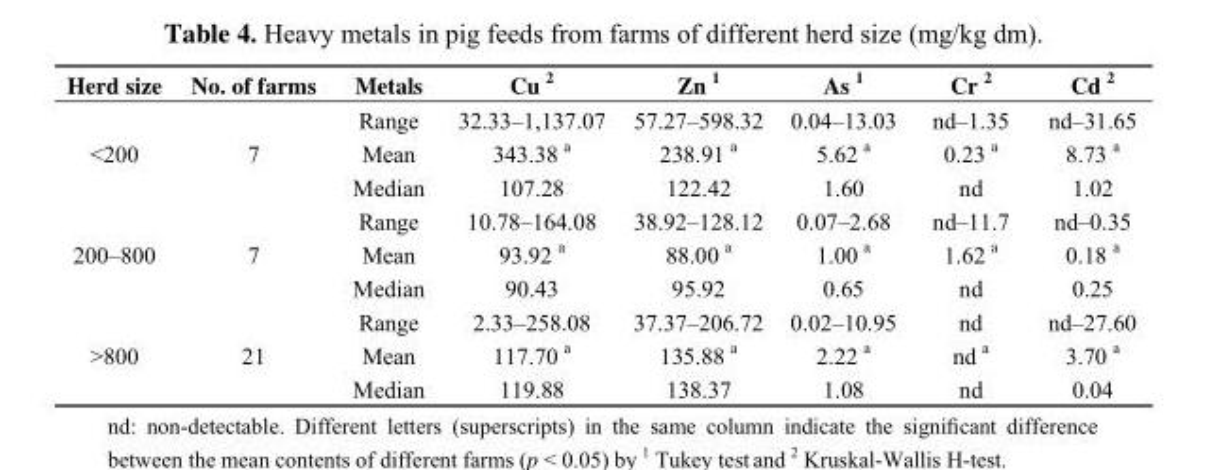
<table><thead><tr><td>Herd size</td><td>No. of farms</td><td>Metals</td><td>Cu <sup>2</sup></td><td>Zn <sup>1</sup></td><td>As <sup>1</sup></td><td>Cr <sup>2</sup></td><td>Cd <sup>2</sup></td></tr></thead><tbody><tr><td rowspan="3">&lt;200</td><td rowspan="3">7</td><td>Range</td><td>32.33–1,137.07</td><td>57.27–598.32</td><td>0.04–13.03</td><td>nd–1.35</td><td>nd–31.65</td></tr><tr><td>Mean</td><td>343.38 <sup>a</sup></td><td>238.91 <sup>a</sup></td><td>5.62 <sup>a</sup></td><td>0.23 <sup>a</sup></td><td>8.73 <sup>a</sup></td></tr><tr><td>Median</td><td>107.28</td><td>122.42</td><td>1.60</td><td>nd</td><td>1.02</td></tr><tr><td rowspan="3">200–800</td><td rowspan="3">7</td><td>Range</td><td>10.78–164.08</td><td>38.92–128.12</td><td>0.07–2.68</td><td>nd–11.7</td><td>nd–0.35</td></tr><tr><td>Mean</td><td>93.92 <sup>a</sup></td><td>88.00 <sup>a</sup></td><td>1.00 <sup>a</sup></td><td>1.62 <sup>a</sup></td><td>0.18 <sup>a</sup></td></tr><tr><td>Median</td><td>90.43</td><td>95.92</td><td>0.65</td><td>nd</td><td>0.25</td></tr><tr><td rowspan="3">&gt;800</td><td rowspan="3">21</td><td>Range</td><td>2.33–258.08</td><td>37.37–206.72</td><td>0.02–10.95</td><td>nd</td><td>nd–27.60</td></tr><tr><td>Mean</td><td>117.70 <sup>a</sup></td><td>135.88 <sup>a</sup></td><td>2.22 <sup>a</sup></td><td>nd <sup>a</sup></td><td>3.70 <sup>a</sup></td></tr><tr><td>Median</td><td>119.88</td><td>138.37</td><td>1.08</td><td>nd</td><td>0.04</td></tr></tbody></table>